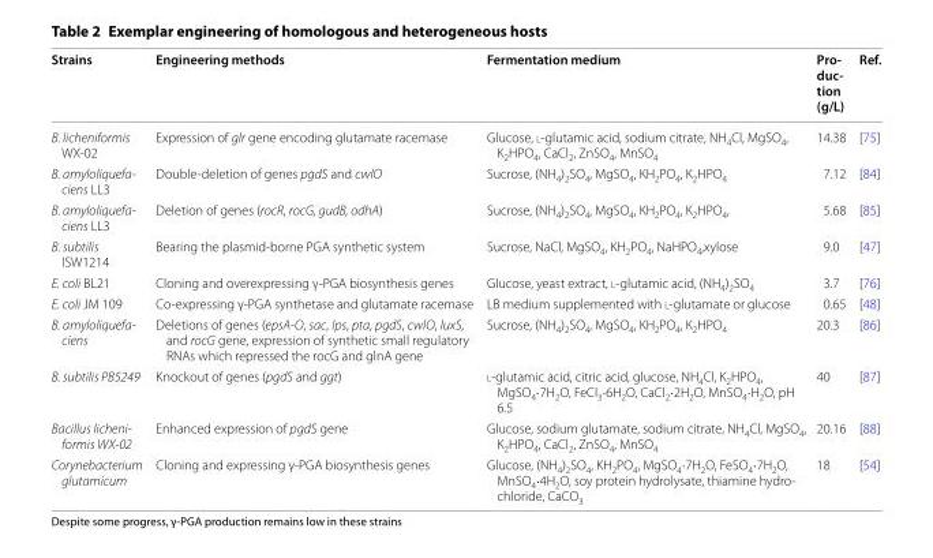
<table><thead><tr><td>Strains</td><td>Engineering methods</td><td>Fermentation medium</td><td>Pro‑ duc‑ tion (g/L)</td><td>Ref.</td></tr></thead><tbody><tr><td>B. licheniformis WX-02</td><td>Expression of glr gene encoding glutamate racemase</td><td>Glucose, l-glutamic acid, sodium citrate, NH<sub>4</sub>Cl, MgSO<sub>4</sub>, K<sub>2</sub>HPO<sub>4</sub>, CaCl<sub>2</sub>, ZnSO<sub>4</sub>, MnSO<sub>4</sub></td><td>14.38</td><td>[75]</td></tr><tr><td>B. amyloliquefa- ciens LL3</td><td>Double-deletion of genes pgdS and cwlO</td><td>Sucrose, (NH<sub>4</sub>)<sub>2</sub>SO<sub>4</sub>, MgSO<sub>4</sub>, KH<sub>2</sub>PO<sub>4</sub>, K<sub>2</sub>HPO<sub>4</sub></td><td>7.12</td><td>[84]</td></tr><tr><td>B. amyloliquefa- ciens LL3</td><td>Deletion of genes (rocR, rocG, gudB, odhA)</td><td>Sucrose, (NH<sub>4</sub>)<sub>2</sub>SO<sub>4</sub>, MgSO<sub>4</sub>, KH<sub>2</sub>PO<sub>4</sub>, K<sub>2</sub>HPO<sub>4</sub>,</td><td>5.68</td><td>[85]</td></tr><tr><td>B. subtilis ISW1214</td><td>Bearing the plasmid-borne PGA synthetic system</td><td>Sucrose, NaCl, MgSO<sub>4</sub>, KH<sub>2</sub>PO<sub>4</sub>, NaHPO<sub>4</sub>,xylose</td><td>9.0</td><td>[47]</td></tr><tr><td>E. coli BL21</td><td>Cloning and overexpressing γ-PGA biosynthesis genes</td><td>Glucose, yeast extract, l-glutamic acid, (NH<sub>4</sub>)<sub>2</sub>SO<sub>4</sub></td><td>3.7</td><td>[76]</td></tr><tr><td>E. coli JM 109</td><td>Co-expressing γ-PGA synthetase and glutamate racemase</td><td>LB medium supplemented with l-glutamate or glucose</td><td>0.65</td><td>[48]</td></tr><tr><td>B. amyloliquefa- ciens</td><td>Deletions of genes (epsA-O, sac, lps, pta, pgdS, cwlO, luxS, and rocG gene, expression of synthetic small regulatory RNAs which repressed the rocG and glnA gene</td><td>Sucrose, (NH<sub>4</sub>)<sub>2</sub>SO<sub>4</sub>, MgSO<sub>4</sub>, KH<sub>2</sub>PO<sub>4</sub>, K<sub>2</sub>HPO<sub>4</sub></td><td>20.3</td><td>[86]</td></tr><tr><td>B. subtilis PB5249</td><td>Knockout of genes (pgdS and ggt)</td><td>l-glutamic acid, citric acid, glucose, NH<sub>4</sub>Cl, K<sub>2</sub>HPO<sub>4</sub>, MgSO<sub>4</sub>·7H<sub>2</sub>O, FeCl<sub>3</sub>·6H<sub>2</sub>O, CaCl<sub>2</sub>·2H<sub>2</sub>O, MnSO<sub>4</sub>·H<sub>2</sub>O, pH 6.5</td><td>40</td><td>[87]</td></tr><tr><td>Bacillus licheni- formis WX-02</td><td>Enhanced expression of pgdS gene</td><td>Glucose, sodium glutamate, sodium citrate, NH<sub>4</sub>Cl, MgSO<sub>4</sub>, K<sub>2</sub>HPO<sub>4</sub>, CaCl<sub>2</sub>, ZnSO<sub>4</sub>, MnSO<sub>4</sub></td><td>20.16</td><td>[88]</td></tr><tr><td>Corynebacterium glutamicum</td><td>Cloning and expressing γ-PGA biosynthesis genes</td><td>Glucose, (NH4)2SO4, KH2PO4, MgSO4·7H2O, FeSO4·7H2O, MnSO4·4H2O, soy protein hydrolysate, thiamine hydro- chloride, CaCO3</td><td>18</td><td>[54]</td></tr></tbody></table>